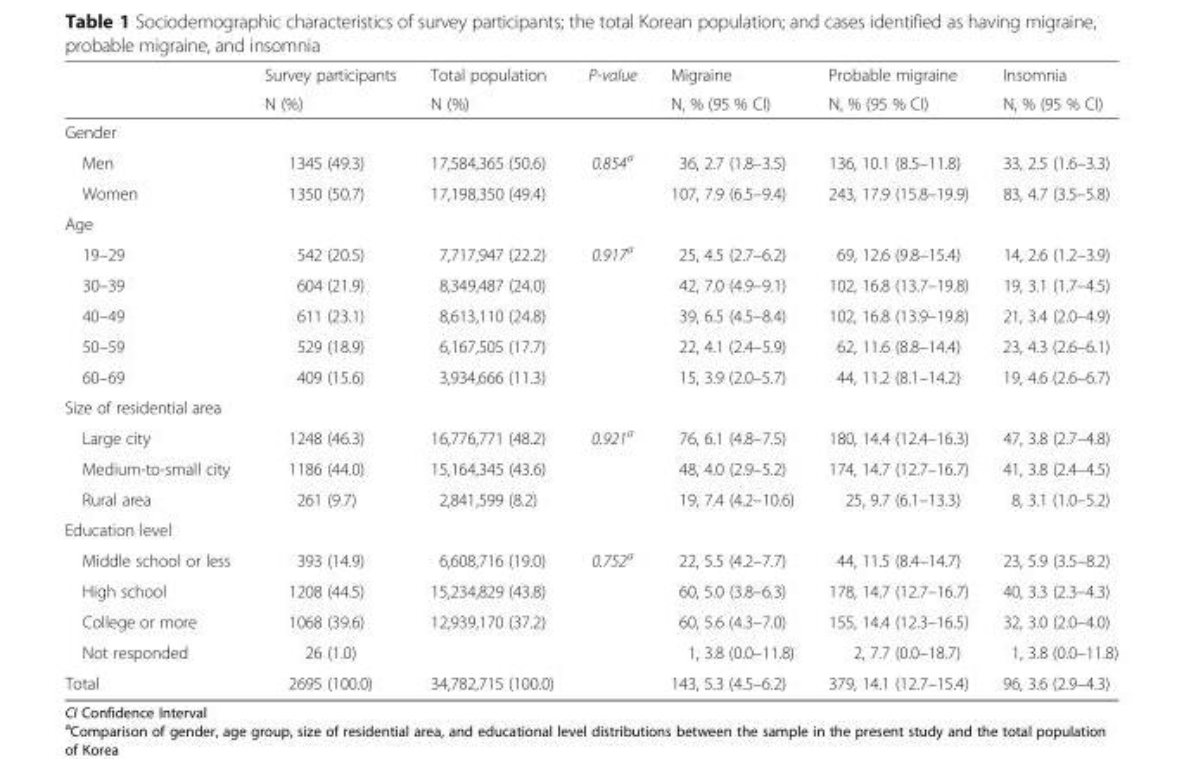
<table><thead><tr><td rowspan="2"></td><td rowspan="2">Survey participants N (%)</td><td rowspan="2">Total population N (%)</td><td rowspan="2">P-value</td><td rowspan="2">Migraine N, % (95 % CI)</td><td rowspan="2">Probable migraine N, % (95 % CI)</td><td rowspan="2">Insomnia N, % (95 % CI)</td></tr><tr></tr></thead><tbody><tr><td colspan="7">Gender</td></tr><tr><td>Men</td><td>1345 (49.3)</td><td>17,584,365 (50.6)</td><td rowspan="2">0.854<sup>a</sup></td><td>36, 2.7 (1.8–3.5)</td><td>136, 10.1 (8.5–11.8)</td><td>33, 2.5 (1.6–3.3)</td></tr><tr><td>Women</td><td>1350 (50.7)</td><td>17,198,350 (49.4)</td><td>107, 7.9 (6.5–9.4)</td><td>243, 17.9 (15.8–19.9)</td><td>83, 4.7 (3.5–5.8)</td></tr><tr><td colspan="7">Age</td></tr><tr><td>19–29</td><td>542 (20.5)</td><td>7,717,947 (22.2)</td><td rowspan="5">0.917<sup>a</sup></td><td>25, 4.5 (2.7–6.2)</td><td>69, 12.6 (9.8–15.4)</td><td>14, 2.6 (1.2–3.9)</td></tr><tr><td>30–39</td><td>604 (21.9)</td><td>8,349,487 (24.0)</td><td>42, 7.0 (4.9–9.1)</td><td>102, 16.8 (13.7–19.8)</td><td>19, 3.1 (1.7–4.5)</td></tr><tr><td>40–49</td><td>611 (23.1)</td><td>8,613,110 (24.8)</td><td>39, 6.5 (4.5–8.4)</td><td>102, 16.8 (13.9–19.8)</td><td>21, 3.4 (2.0–4.9)</td></tr><tr><td>50–59</td><td>529 (18.9)</td><td>6,167,505 (17.7)</td><td>22, 4.1 (2.4–5.9)</td><td>62, 11.6 (8.8–14.4)</td><td>23, 4.3 (2.6–6.1)</td></tr><tr><td>60–69</td><td>409 (15.6)</td><td>3,934,666 (11.3)</td><td>15, 3.9 (2.0–5.7)</td><td>44, 11.2 (8.1–14.2)</td><td>19, 4.6 (2.6–6.7)</td></tr><tr><td colspan="7">Size of residential area</td></tr><tr><td>Large city</td><td>1248 (46.3)</td><td>16,776,771 (48.2)</td><td rowspan="3">0.921<sup>a</sup></td><td>76, 6.1 (4.8–7.5)</td><td>180, 14.4 (12.4–16.3)</td><td>47, 3.8 (2.7–4.8)</td></tr><tr><td>Medium-to-small city</td><td>1186 (44.0)</td><td>15,164,345 (43.6)</td><td>48, 4.0 (2.9–5.2)</td><td>174, 14.7 (12.7–16.7)</td><td>41, 3.8 (2.4–4.5)</td></tr><tr><td>Rural area</td><td>261 (9.7)</td><td>2,841,599 (8.2)</td><td>19, 7.4 (4.2–10.6)</td><td>25, 9.7 (6.1–13.3)</td><td>8, 3.1 (1.0–5.2)</td></tr><tr><td colspan="7">Education level</td></tr><tr><td>Middle school or less</td><td>393 (14.9)</td><td>6,608,716 (19.0)</td><td rowspan="3">0.752<sup>a</sup></td><td>22, 5.5 (4.2–7.7)</td><td>44, 11.5 (8.4–14.7)</td><td>23, 5.9 (3.5–8.2)</td></tr><tr><td>High school</td><td>1208 (44.5)</td><td>15,234,829 (43.8)</td><td>60, 5.0 (3.8–6.3)</td><td>178, 14.7 (12.7–16.7)</td><td>40, 3.3 (2.3–4.3)</td></tr><tr><td>College or more</td><td>1068 (39.6)</td><td>12,939,170 (37.2)</td><td>60, 5.6 (4.3–7.0)</td><td>155, 14.4 (12.3–16.5)</td><td>32, 3.0 (2.0–4.0)</td></tr><tr><td>Not responded</td><td>26 (1.0)</td><td></td><td></td><td>1, 3.8 (0.0–11.8)</td><td>2, 7.7 (0.0–18.7)</td><td>1, 3.8 (0.0–11.8)</td></tr><tr><td>Total</td><td>2695 (100.0)</td><td>34,782,715 (100.0)</td><td></td><td>143, 5.3 (4.5–6.2)</td><td>379, 14.1 (12.7–15.4)</td><td>96, 3.6 (2.9–4.3)</td></tr></tbody></table>